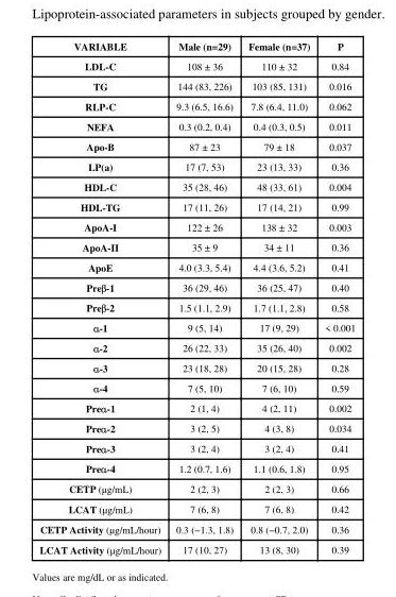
<table><thead><tr><td>VARIABLE</td><td>Male (n=29)</td><td>Female (n=37)</td><td>P</td></tr></thead><tbody><tr><td>LDL-C</td><td>108 ± 36</td><td>110 ± 32</td><td>0.84</td></tr><tr><td>TG</td><td>144 (83, 226)</td><td>103 (85, 131)</td><td>0.016</td></tr><tr><td>RLP-C</td><td>9.3 (6.5, 16.6)</td><td>7.8 (6.4, 11.0)</td><td>0.062</td></tr><tr><td>NEFA</td><td>0.3 (0.2, 0.4)</td><td>0.4 (0.3, 0.5)</td><td>0.011</td></tr><tr><td>Apo-B</td><td>87 ± 23</td><td>79 ± 18</td><td>0.037</td></tr><tr><td>LP(a)</td><td>17 (7, 53)</td><td>23 (13, 33)</td><td>0.36</td></tr><tr><td>HDL-C</td><td>35 (28, 46)</td><td>48 (33, 61)</td><td>0.004</td></tr><tr><td>HDL-TG</td><td>17 (11, 26)</td><td>17 (14, 21)</td><td>0.99</td></tr><tr><td>ApoA-I</td><td>122 ± 26</td><td>138 ± 32</td><td>0.003</td></tr><tr><td>ApoA-II</td><td>35 ± 9</td><td>34 ± 11</td><td>0.36</td></tr><tr><td>ApoE</td><td>4.0 (3.3, 5.4)</td><td>4.4 (3.6, 5.2)</td><td>0.41</td></tr><tr><td>Preβ-1</td><td>36 (29, 46)</td><td>36 (25, 47)</td><td>0.40</td></tr><tr><td>Preβ-2</td><td>1.5 (1.1, 2.9)</td><td>1.7 (1.1, 2.8)</td><td>0.58</td></tr><tr><td>α-1</td><td>9 (5, 14)</td><td>17 (9, 29)</td><td>&lt; 0.001</td></tr><tr><td>α-2</td><td>26 (22, 33)</td><td>35 (26, 40)</td><td>0.002</td></tr><tr><td>α-3</td><td>23 (18, 28)</td><td>20 (15, 28)</td><td>0.28</td></tr><tr><td>α-4</td><td>7 (5, 10)</td><td>7 (6, 10)</td><td>0.59</td></tr><tr><td>Preα-1</td><td>2 (1, 4)</td><td>4 (2, 11)</td><td>0.002</td></tr><tr><td>Preα-2</td><td>3 (2, 5)</td><td>4 (3, 8)</td><td>0.034</td></tr><tr><td>Preα-3</td><td>3 (2, 4)</td><td>3 (2, 4)</td><td>0.41</td></tr><tr><td>Preα-4</td><td>1.2 (0.7, 1.6)</td><td>1.1 (0.6, 1.8)</td><td>0.95</td></tr><tr><td>CETP (μg/mL)</td><td>2 (2, 3)</td><td>2 (2, 3)</td><td>0.66</td></tr><tr><td>LCAT (μg/mL)</td><td>7 (6, 8)</td><td>7 (6, 8)</td><td>0.42</td></tr><tr><td>CETP Activity (μg/mL/hour)</td><td>0.3 (−1.3, 1.8)</td><td>0.8 (−0.7, 2.0)</td><td>0.36</td></tr><tr><td>LCAT Activity (μg/mL/hour)</td><td>17 (10, 27)</td><td>13 (8, 30)</td><td>0.39</td></tr></tbody></table>